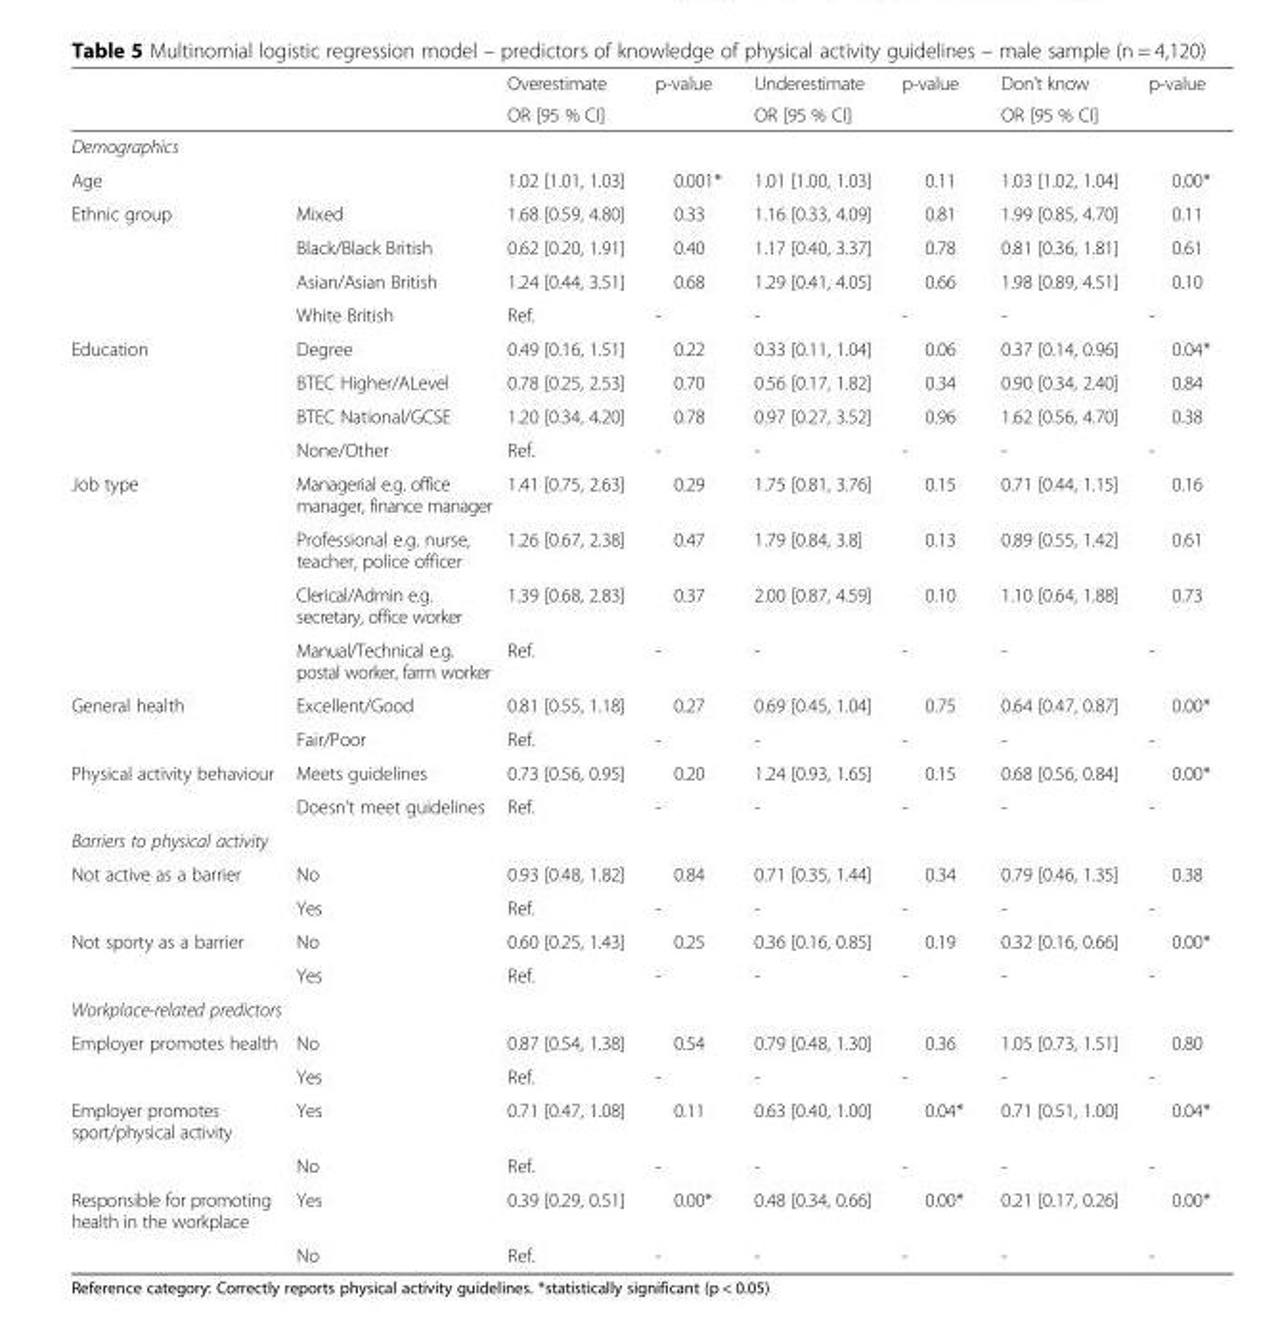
<table><thead><tr><td rowspan="2"></td><td rowspan="2"></td><td rowspan="2">Overestimate OR [95 % CI]</td><td rowspan="2">p-value</td><td rowspan="2">Underestimate OR [95 % CI]</td><td rowspan="2">p-value</td><td rowspan="2">Don’t know OR [95 % CI]</td><td rowspan="2">p-value</td></tr><tr></tr></thead><tbody><tr><td colspan="8">Demographics</td></tr><tr><td>Age</td><td></td><td>1.02 [1.01, 1.03]</td><td>0.001*</td><td>1.01 [1.00, 1.03]</td><td>0.11</td><td>1.03 [1.02, 1.04]</td><td>0.00*</td></tr><tr><td rowspan="4">Ethnic group</td><td>Mixed</td><td>1.68 [0.59, 4.80]</td><td>0.33</td><td>1.16 [0.33, 4.09]</td><td>0.81</td><td>1.99 [0.85, 4.70]</td><td>0.11</td></tr><tr><td>Black/Black British</td><td>0.62 [0.20, 1.91]</td><td>0.40</td><td>1.17 [0.40, 3.37]</td><td>0.78</td><td>0.81 [0.36, 1.81]</td><td>0.61</td></tr><tr><td>Asian/Asian British</td><td>1.24 [0.44, 3.51]</td><td>0.68</td><td>1.29 [0.41, 4.05]</td><td>0.66</td><td>1.98 [0.89, 4.51]</td><td>0.10</td></tr><tr><td>White British</td><td>Ref.</td><td>-</td><td>-</td><td>-</td><td>-</td><td>-</td></tr><tr><td rowspan="4">Education</td><td>Degree</td><td>0.49 [0.16, 1.51]</td><td>0.22</td><td>0.33 [0.11, 1.04]</td><td>0.06</td><td>0.37 [0.14, 0.96]</td><td>0.04*</td></tr><tr><td>BTEC Higher/ALevel</td><td>0.78 [0.25, 2.53]</td><td>0.70</td><td>0.56 [0.17, 1.82]</td><td>0.34</td><td>0.90 [0.34, 2.40]</td><td>0.84</td></tr><tr><td>BTEC National/GCSE</td><td>1.20 [0.34, 4.20]</td><td>0.78</td><td>0.97 [0.27, 3.52]</td><td>0.96</td><td>1.62 [0.56, 4.70]</td><td>0.38</td></tr><tr><td>None/Other</td><td>Ref.</td><td>-</td><td>-</td><td>-</td><td>-</td><td>-</td></tr><tr><td rowspan="4">Job type</td><td>Managerial e.g. office manager, finance manager</td><td>1.41 [0.75, 2.63]</td><td>0.29</td><td>1.75 [0.81, 3.76]</td><td>0.15</td><td>0.71 [0.44, 1.15]</td><td>0.16</td></tr><tr><td>Professional e.g. nurse, teacher, police officer</td><td>1.26 [0.67, 2.38]</td><td>0.47</td><td>1.79 [0.84, 3.8]</td><td>0.13</td><td>0.89 [0.55, 1.42]</td><td>0.61</td></tr><tr><td>Clerical/Admin e.g. secretary, office worker</td><td>1.39 [0.68, 2.83]</td><td>0.37</td><td>2.00 [0.87, 4.59]</td><td>0.10</td><td>1.10 [0.64, 1.88]</td><td>0.73</td></tr><tr><td>Manual/Technical e.g. postal worker, farm worker</td><td>Ref.</td><td>-</td><td>-</td><td>-</td><td>-</td><td>-</td></tr><tr><td rowspan="2">General health</td><td>Excellent/Good</td><td>0.81 [0.55, 1.18]</td><td>0.27</td><td>0.69 [0.45, 1.04]</td><td>0.75</td><td>0.64 [0.47, 0.87]</td><td>0.00*</td></tr><tr><td>Fair/Poor</td><td>Ref.</td><td>-</td><td>-</td><td>-</td><td>-</td><td>-</td></tr><tr><td rowspan="2">Physical activity behaviour</td><td>Meets guidelines</td><td>0.73 [0.56, 0.95]</td><td>0.20</td><td>1.24 [0.93, 1.65]</td><td>0.15</td><td>0.68 [0.56, 0.84]</td><td>0.00*</td></tr><tr><td>Doesn’t meet guidelines</td><td>Ref.</td><td>-</td><td>-</td><td>-</td><td>-</td><td>-</td></tr><tr><td colspan="8">Barriers to physical activity</td></tr><tr><td rowspan="2">Not active as a barrier</td><td>No</td><td>0.93 [0.48, 1.82]</td><td>0.84</td><td>0.71 [0.35, 1.44]</td><td>0.34</td><td>0.79 [0.46, 1.35]</td><td>0.38</td></tr><tr><td>Yes</td><td>Ref.</td><td>-</td><td>-</td><td>-</td><td>-</td><td>-</td></tr><tr><td rowspan="2">Not sporty as a barrier</td><td>No</td><td>0.60 [0.25, 1.43]</td><td>0.25</td><td>0.36 [0.16, 0.85]</td><td>0.19</td><td>0.32 [0.16, 0.66]</td><td>0.00*</td></tr><tr><td>Yes</td><td>Ref.</td><td>-</td><td>-</td><td>-</td><td>-</td><td>-</td></tr><tr><td colspan="8">Workplace-related predictors</td></tr><tr><td rowspan="2">Employer promotes health</td><td>No</td><td>0.87 [0.54, 1.38]</td><td>0.54</td><td>0.79 [0.48, 1.30]</td><td>0.36</td><td>1.05 [0.73, 1.51]</td><td>0.80</td></tr><tr><td>Yes</td><td>Ref.</td><td>-</td><td>-</td><td>-</td><td>-</td><td>-</td></tr><tr><td rowspan="2">Employer promotes sport/physical activity</td><td>Yes</td><td>0.71 [0.47, 1.08]</td><td>0.11</td><td>0.63 [0.40, 1.00]</td><td>0.04*</td><td>0.71 [0.51, 1.00]</td><td>0.04*</td></tr><tr><td>No</td><td>Ref.</td><td>-</td><td>-</td><td>-</td><td>-</td><td>-</td></tr><tr><td rowspan="2">Responsible for promoting health in the workplace</td><td>Yes</td><td>0.39 [0.29, 0.51]</td><td>0.00*</td><td>0.48 [0.34, 0.66]</td><td>0.00*</td><td>0.21 [0.17, 0.26]</td><td>0.00*</td></tr><tr><td>No</td><td>Ref.</td><td>-</td><td>-</td><td>-</td><td>-</td><td>-</td></tr></tbody></table>